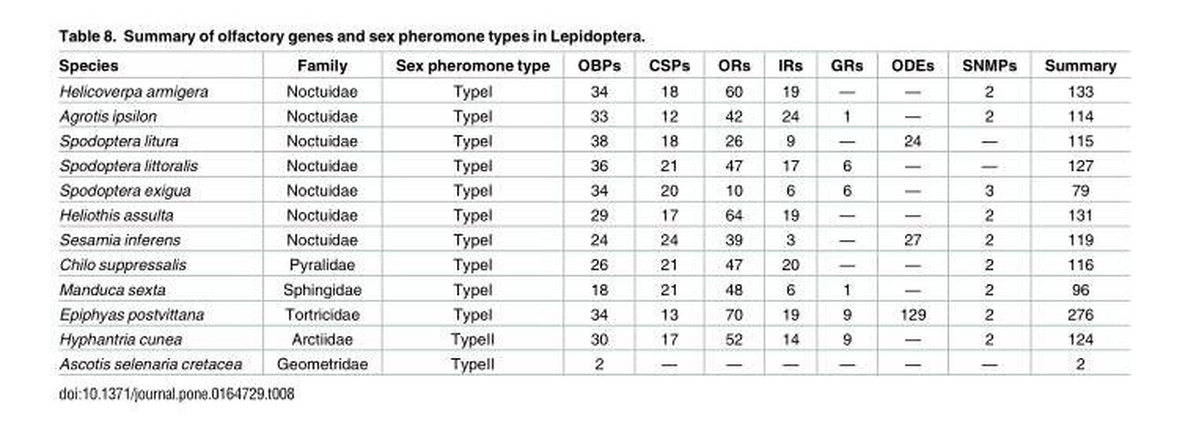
<table><thead><tr><td>Species</td><td>Family</td><td>Sex pheromone type</td><td>OBPs</td><td>CSPs</td><td>ORs</td><td>IRs</td><td>GRs</td><td>ODEs</td><td>SNMPs</td><td>Summary</td></tr></thead><tbody><tr><td>Helicoverpa armigera</td><td>Noctuidae</td><td>TypeI</td><td>34</td><td>18</td><td>60</td><td>19</td><td>—</td><td>—</td><td>2</td><td>133</td></tr><tr><td>Agrotis ipsilon</td><td>Noctuidae</td><td>TypeI</td><td>33</td><td>12</td><td>42</td><td>24</td><td>1</td><td>—</td><td>2</td><td>114</td></tr><tr><td>Spodoptera litura</td><td>Noctuidae</td><td>TypeI</td><td>38</td><td>18</td><td>26</td><td>9</td><td>—</td><td>24</td><td>—</td><td>115</td></tr><tr><td>Spodoptera littoralis</td><td>Noctuidae</td><td>TypeI</td><td>36</td><td>21</td><td>47</td><td>17</td><td>6</td><td>—</td><td>—</td><td>127</td></tr><tr><td>Spodoptera exigua</td><td>Noctuidae</td><td>TypeI</td><td>34</td><td>20</td><td>10</td><td>6</td><td>6</td><td>—</td><td>3</td><td>79</td></tr><tr><td>Heliothis assulta</td><td>Noctuidae</td><td>TypeI</td><td>29</td><td>17</td><td>64</td><td>19</td><td>—</td><td>—</td><td>2</td><td>131</td></tr><tr><td>Sesamia inferens</td><td>Noctuidae</td><td>TypeI</td><td>24</td><td>24</td><td>39</td><td>3</td><td>—</td><td>27</td><td>2</td><td>119</td></tr><tr><td>Chilo suppressalis</td><td>Pyralidae</td><td>TypeI</td><td>26</td><td>21</td><td>47</td><td>20</td><td>—</td><td>—</td><td>2</td><td>116</td></tr><tr><td>Manduca sexta</td><td>Sphingidae</td><td>TypeI</td><td>18</td><td>21</td><td>48</td><td>6</td><td>1</td><td>—</td><td>2</td><td>96</td></tr><tr><td>Epiphyas postvittana</td><td>Tortricidae</td><td>TypeI</td><td>34</td><td>13</td><td>70</td><td>19</td><td>9</td><td>129</td><td>2</td><td>276</td></tr><tr><td>Hyphantria cunea</td><td>Arctiidae</td><td>TypeII</td><td>30</td><td>17</td><td>52</td><td>14</td><td>9</td><td>—</td><td>2</td><td>124</td></tr><tr><td>Ascotis selenaria cretacea</td><td>Geometridae</td><td>TypeII</td><td>2</td><td>—</td><td>—</td><td>—</td><td>—</td><td>—</td><td>—</td><td>2</td></tr></tbody></table>